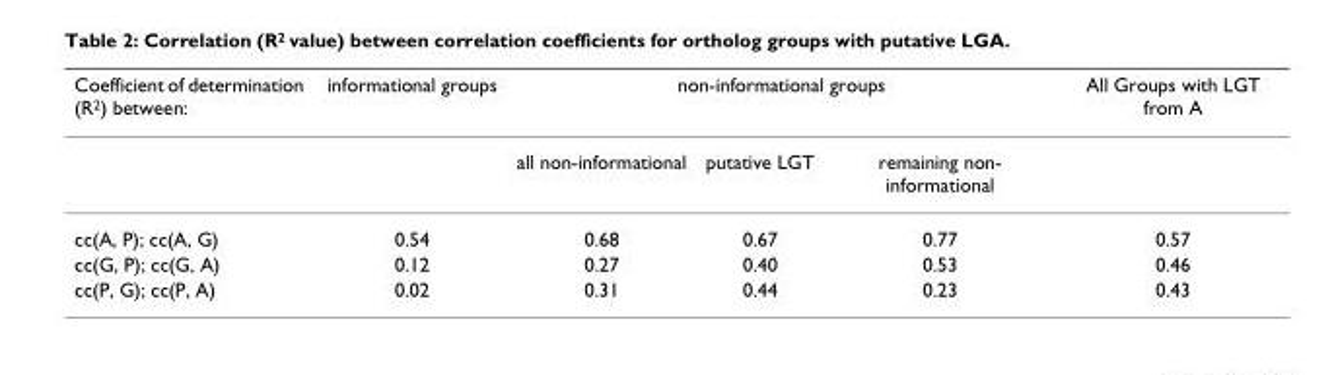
<table><thead><tr><td rowspan="2">Coefficient of determination (R<sup>2</sup>) between:</td><td rowspan="2">informational groups</td><td colspan="3">non-informational groups</td><td rowspan="2">All Groups with LGT from A</td></tr><tr><td>all non-informational</td><td>putative LGT</td><td>remaining non- informational</td></tr></thead><tbody><tr><td>cc(A, P); cc(A, G)</td><td>0.54</td><td>0.68</td><td>0.67</td><td>0.77</td><td>0.57</td></tr><tr><td>cc(G, P); cc(G, A)</td><td>0.12</td><td>0.27</td><td>0.40</td><td>0.53</td><td>0.46</td></tr><tr><td>cc(P, G); cc(P, A)</td><td>0.02</td><td>0.31</td><td>0.44</td><td>0.23</td><td>0.43</td></tr></tbody></table>